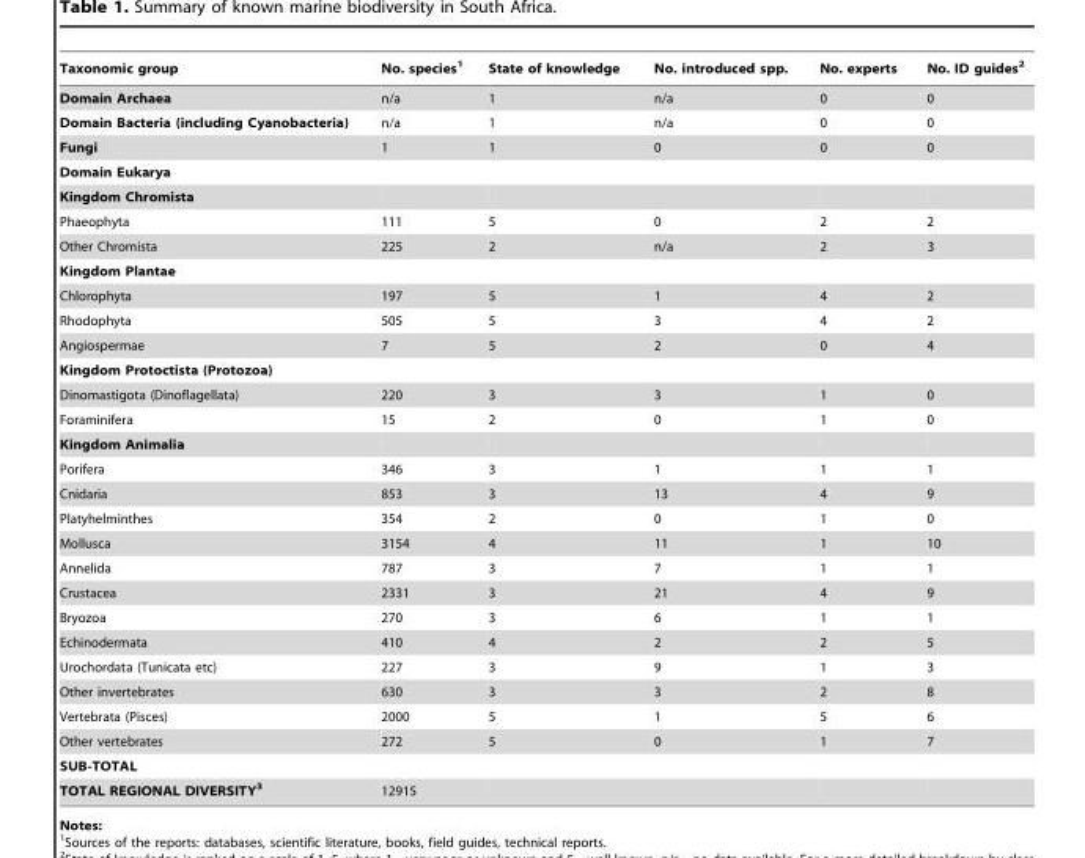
<table><thead><tr><td>Taxonomic group</td><td>No. species<sup>1</sup></td><td>State of knowledge</td><td>No. introduced spp.</td><td>No. experts</td><td>No. ID guides<sup>2</sup></td></tr></thead><tbody><tr><td>Domain Archaea</td><td>n/a</td><td>1</td><td>n/a</td><td>0</td><td>0</td></tr><tr><td>Domain Bacteria (including Cyanobacteria)</td><td>n/a</td><td>1</td><td>n/a</td><td>0</td><td>0</td></tr><tr><td>Fungi</td><td>1</td><td>1</td><td>0</td><td>0</td><td>0</td></tr><tr><td colspan="6">Domain Eukarya</td></tr><tr><td colspan="6">Kingdom Chromista</td></tr><tr><td>Phaeophyta</td><td>111</td><td>5</td><td>0</td><td>2</td><td>2</td></tr><tr><td>Other Chromista</td><td>225</td><td>2</td><td>n/a</td><td>2</td><td>3</td></tr><tr><td colspan="6">Kingdom Plantae</td></tr><tr><td>Chlorophyta</td><td>197</td><td>5</td><td>1</td><td>4</td><td>2</td></tr><tr><td>Rhodophyta</td><td>505</td><td>5</td><td>3</td><td>4</td><td>2</td></tr><tr><td>Angiospermae</td><td>7</td><td>5</td><td>2</td><td>0</td><td>4</td></tr><tr><td colspan="6">Kingdom Protoctista (Protozoa)</td></tr><tr><td>Dinomastigota (Dinoflagellata)</td><td>220</td><td>3</td><td>3</td><td>1</td><td>0</td></tr><tr><td>Foraminifera</td><td>15</td><td>2</td><td>0</td><td>1</td><td>0</td></tr><tr><td colspan="6">Kingdom Animalia</td></tr><tr><td>Porifera</td><td>346</td><td>3</td><td>1</td><td>1</td><td>1</td></tr><tr><td>Cnidaria</td><td>853</td><td>3</td><td>13</td><td>4</td><td>9</td></tr><tr><td>Platyhelminthes</td><td>354</td><td>2</td><td>0</td><td>1</td><td>0</td></tr><tr><td>Mollusca</td><td>3154</td><td>4</td><td>11</td><td>1</td><td>10</td></tr><tr><td>Annelida</td><td>787</td><td>3</td><td>7</td><td>1</td><td>1</td></tr><tr><td>Crustacea</td><td>2331</td><td>3</td><td>21</td><td>4</td><td>9</td></tr><tr><td>Bryozoa</td><td>270</td><td>3</td><td>6</td><td>1</td><td>1</td></tr><tr><td>Echinodermata</td><td>410</td><td>4</td><td>2</td><td>2</td><td>5</td></tr><tr><td>Urochordata (Tunicata etc)</td><td>227</td><td>3</td><td>9</td><td>1</td><td>3</td></tr><tr><td>Other invertebrates</td><td>630</td><td>3</td><td>3</td><td>2</td><td>8</td></tr><tr><td>Vertebrata (Pisces)</td><td>2000</td><td>5</td><td>1</td><td>5</td><td>6</td></tr><tr><td>Other vertebrates</td><td>272</td><td>5</td><td>0</td><td>1</td><td>7</td></tr><tr><td colspan="6">SUB-TOTAL</td></tr><tr><td>TOTAL REGIONAL DIVERSITY3</td><td>12915</td><td></td><td></td><td></td><td></td></tr></tbody></table>